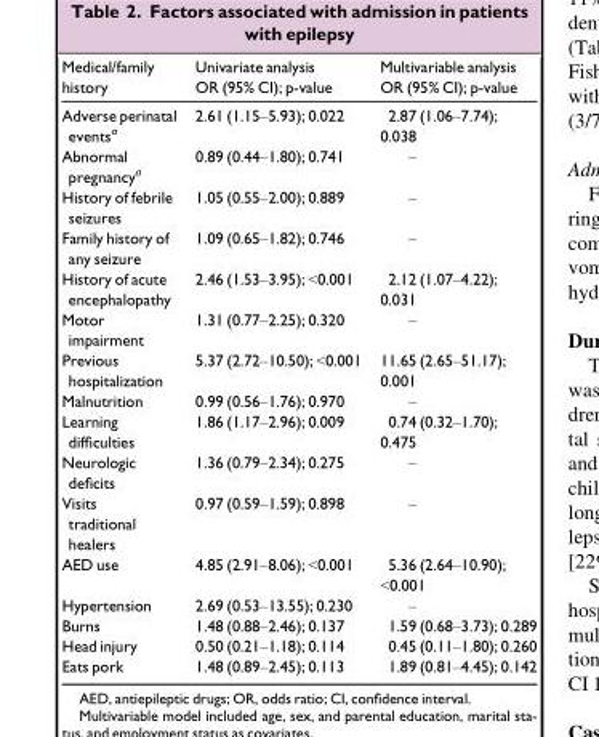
<table><thead><tr><td>Medical/family history</td><td>Univariate analysis OR (95% CI); p-value</td><td>Multivariable analysis OR (95% CI); p-value</td></tr></thead><tbody><tr><td>Adverse perinatal events<sup>a</sup></td><td>2.61 (1.15–5.93); 0.022</td><td>2.87 (1.06–7.74); 0.038</td></tr><tr><td>Abnormal pregnancy<sup>a</sup></td><td>0.89 (0.44–1.80); 0.741</td><td>–</td></tr><tr><td>History of febrile seizures</td><td>1.05 (0.55–2.00); 0.889</td><td>–</td></tr><tr><td>Family history of any seizure</td><td>1.09 (0.65–1.82); 0.746</td><td>–</td></tr><tr><td>History of acute encephalopathy</td><td>2.46 (1.53–3.95); &lt;0.001</td><td>2.12 (1.07–4.22); 0.031</td></tr><tr><td>Motor impairment</td><td>1.31 (0.77–2.25); 0.320</td><td>–</td></tr><tr><td>Previous hospitalization</td><td>5.37 (2.72–10.50); &lt;0.001</td><td>11.65 (2.65–51.17); 0.001</td></tr><tr><td>Malnutrition</td><td>0.99 (0.56–1.76); 0.970</td><td>–</td></tr><tr><td>Learning difficulties</td><td>1.86 (1.17–2.96); 0.009</td><td>0.74 (0.32–1.70); 0.475</td></tr><tr><td>Neurologic deficits</td><td>1.36 (0.79–2.34); 0.275</td><td>–</td></tr><tr><td>Visits traditional healers</td><td>0.97 (0.59–1.59); 0.898</td><td>–</td></tr><tr><td>AED use</td><td>4.85 (2.91–8.06); &lt;0.001</td><td>5.36 (2.64–10.90); &lt;0.001</td></tr><tr><td>Hypertension</td><td>2.69 (0.53–13.55); 0.230</td><td>–</td></tr><tr><td>Burns</td><td>1.48 (0.88–2.46); 0.137</td><td>1.59 (0.68–3.73); 0.289</td></tr><tr><td>Head injury</td><td>0.50 (0.21–1.18); 0.114</td><td>0.45 (0.11–1.80); 0.260</td></tr><tr><td>Eats pork</td><td>1.48 (0.89–2.45); 0.113</td><td>1.89 (0.81–4.45); 0.142</td></tr></tbody></table>